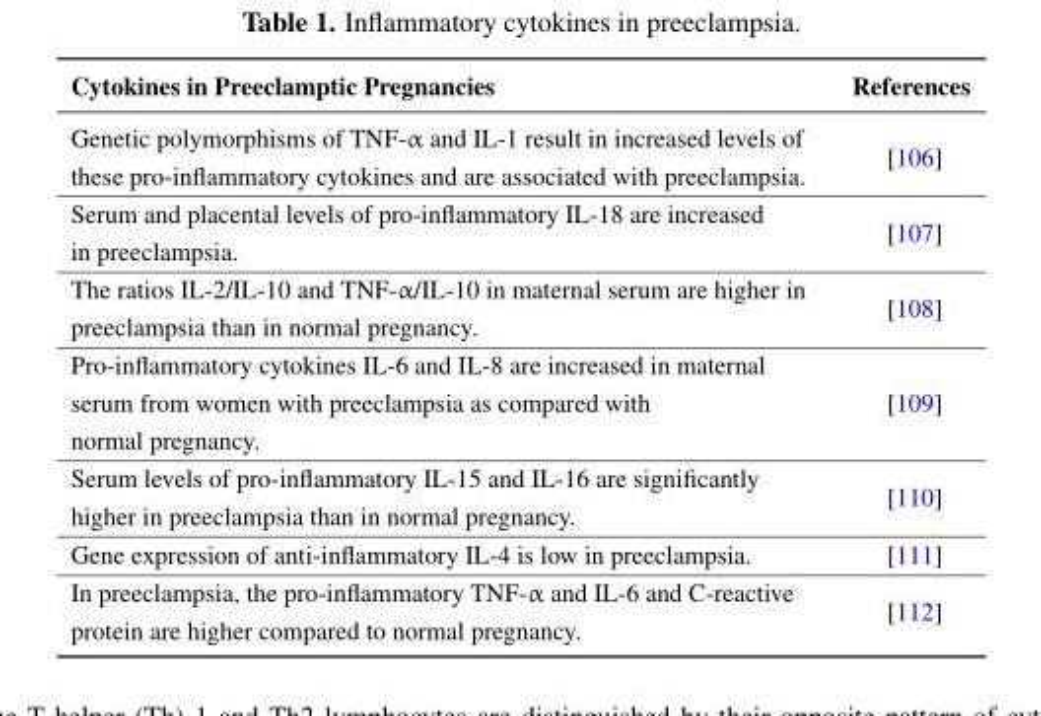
<table><thead><tr><td>Cytokines in Preeclamptic Pregnancies</td><td>References</td></tr></thead><tbody><tr><td>Genetic polymorphisms of TNF-α and IL-1 result in increased levels of these pro-inflammatory cytokines and are associated with preeclampsia.</td><td>[106]</td></tr><tr><td>Serum and placental levels of pro-inflammatory IL-18 are increased in preeclampsia.</td><td>[107]</td></tr><tr><td>The ratios IL-2/IL-10 and TNF-α/IL-10 in maternal serum are higher in preeclampsia than in normal pregnancy.</td><td>[108]</td></tr><tr><td>Pro-inflammatory cytokines IL-6 and IL-8 are increased in maternal serum from women with preeclampsia as compared with normal pregnancy.</td><td>[109]</td></tr><tr><td>Serum levels of pro-inflammatory IL-15 and IL-16 are significantly higher in preeclampsia than in normal pregnancy.</td><td>[110]</td></tr><tr><td>Gene expression of anti-inflammatory IL-4 is low in preeclampsia.</td><td>[111]</td></tr><tr><td>In preeclampsia, the pro-inflammatory TNF-α and IL-6 and C-reactive protein are higher compared to normal pregnancy.</td><td>[112]</td></tr></tbody></table>